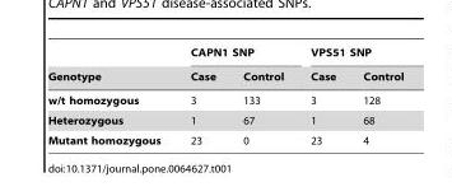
<table><thead><tr><td rowspan="2">Genotype</td><td colspan="2">CAPN1 SNP</td><td colspan="2">VPS51 SNP</td></tr><tr><td>Case</td><td>Control</td><td>Case</td><td>Control</td></tr></thead><tbody><tr><td>w/t homozygous</td><td>3</td><td>133</td><td>3</td><td>128</td></tr><tr><td>Heterozygous</td><td>1</td><td>67</td><td>1</td><td>68</td></tr><tr><td>Mutant homozygous</td><td>23</td><td>0</td><td>23</td><td>4</td></tr></tbody></table>